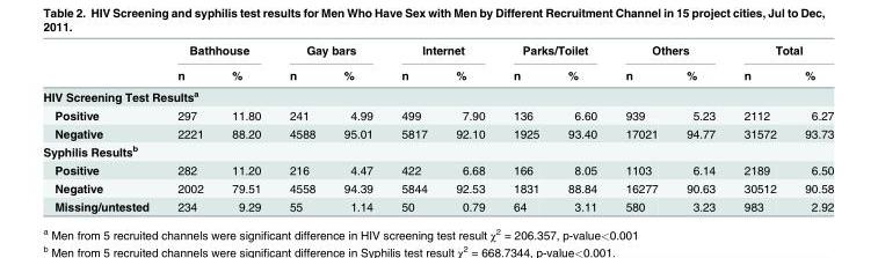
<table><thead><tr><td rowspan="2"></td><td colspan="2">Bathhouse</td><td colspan="2">Gay bars</td><td colspan="2">Internet</td><td colspan="2">Parks/Toilet</td><td colspan="2">Others</td><td colspan="2">Total</td></tr><tr><td>n</td><td>%</td><td>n</td><td>%</td><td>n</td><td>%</td><td>n</td><td>%</td><td>n</td><td>%</td><td>n</td><td>%</td></tr></thead><tbody><tr><td colspan="13">HIV Screening Test Results<sup>a</sup></td></tr><tr><td>Positive</td><td>297</td><td>11.80</td><td>241</td><td>4.99</td><td>499</td><td>7.90</td><td>136</td><td>6.60</td><td>939</td><td>5.23</td><td>2112</td><td>6.27</td></tr><tr><td>Negative</td><td>2221</td><td>88.20</td><td>4588</td><td>95.01</td><td>5817</td><td>92.10</td><td>1925</td><td>93.40</td><td>17021</td><td>94.77</td><td>31572</td><td>93.73</td></tr><tr><td colspan="13">Syphilis Results<sup>b</sup></td></tr><tr><td>Positive</td><td>282</td><td>11.20</td><td>216</td><td>4.47</td><td>422</td><td>6.68</td><td>166</td><td>8.05</td><td>1103</td><td>6.14</td><td>2189</td><td>6.50</td></tr><tr><td>Negative</td><td>2002</td><td>79.51</td><td>4558</td><td>94.39</td><td>5844</td><td>92.53</td><td>1831</td><td>88.84</td><td>16277</td><td>90.63</td><td>30512</td><td>90.58</td></tr><tr><td>Missing/untested</td><td>234</td><td>9.29</td><td>55</td><td>1.14</td><td>50</td><td>0.79</td><td>64</td><td>3.11</td><td>580</td><td>3.23</td><td>983</td><td>2.92</td></tr></tbody></table>